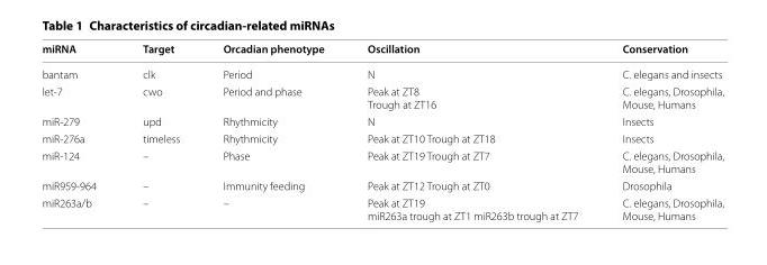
<table><thead><tr><td>miRNA</td><td>Target</td><td>Orcadian phenotype</td><td>Oscillation</td><td>Conservation</td></tr></thead><tbody><tr><td>bantam</td><td>clk</td><td>Period</td><td>N</td><td>C. elegans and insects</td></tr><tr><td>let-7</td><td>cwo</td><td>Period and phase</td><td>Peak at ZT8 Trough at ZT16</td><td>C. elegans, Drosophila, Mouse, Humans</td></tr><tr><td>miR-279</td><td>upd</td><td>Rhythmicity</td><td>N</td><td>Insects</td></tr><tr><td>miR-276a</td><td>timeless</td><td>Rhythmicity</td><td>Peak at ZT10 Trough at ZT18</td><td>Insects</td></tr><tr><td>miR-124</td><td>–</td><td>Phase</td><td>Peak at ZT19 Trough at ZT7</td><td>C. elegans, Drosophila, Mouse, Humans</td></tr><tr><td>miR959-964</td><td>–</td><td>Immunity feeding</td><td>Peak at ZT12 Trough at ZT0</td><td>Drosophila</td></tr><tr><td>miR263a/b</td><td>–</td><td>–</td><td>Peak at ZT19 miR263a trough at ZT1 miR263b trough at ZT7</td><td>C. elegans, Drosophila, Mouse, Humans</td></tr></tbody></table>